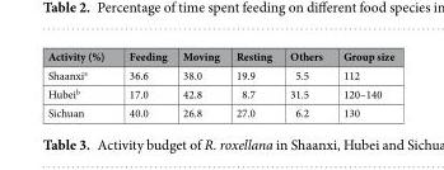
<table><thead><tr><td>Activity (%)</td><td>Feeding</td><td>Moving</td><td>Resting</td><td>Others</td><td>Group size</td></tr></thead><tbody><tr><td>Shaanxi<sup>a</sup></td><td>36.6</td><td>38.0</td><td>19.9</td><td>5.5</td><td>112</td></tr><tr><td>Hubei<sup>b</sup></td><td>17.0</td><td>42.8</td><td>8.7</td><td>31.5</td><td>120–140</td></tr><tr><td>Sichuan</td><td>40.0</td><td>26.8</td><td>27.0</td><td>6.2</td><td>130</td></tr></tbody></table>